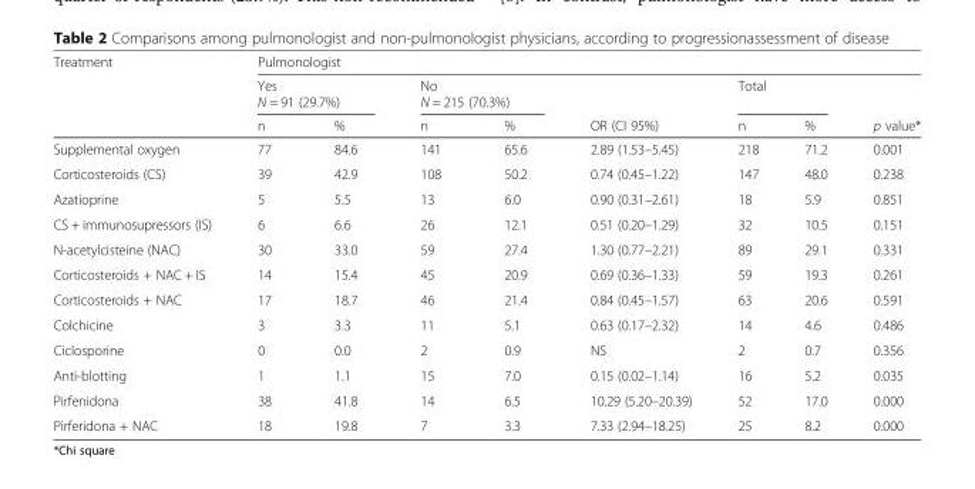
<table><thead><tr><td rowspan="3">Treatment</td><td colspan="8">Pulmonologist</td></tr><tr><td colspan="2">Yes N = 91 (29.7%)</td><td colspan="2">No N = 215 (70.3%)</td><td rowspan="2">OR (CI 95%)</td><td colspan="2">Total</td><td rowspan="2">p value*</td></tr><tr><td>n</td><td>%</td><td>n</td><td>%</td><td>n</td><td>%</td></tr></thead><tbody><tr><td>Supplemental oxygen</td><td>77</td><td>84.6</td><td>141</td><td>65.6</td><td>2.89 (1.53–5.45)</td><td>218</td><td>71.2</td><td>0.001</td></tr><tr><td>Corticosteroids (CS)</td><td>39</td><td>42.9</td><td>108</td><td>50.2</td><td>0.74 (0.45–1.22)</td><td>147</td><td>48.0</td><td>0.238</td></tr><tr><td>Azatioprine</td><td>5</td><td>5.5</td><td>13</td><td>6.0</td><td>0.90 (0.31–2.61)</td><td>18</td><td>5.9</td><td>0.851</td></tr><tr><td>CS + immunosupressors (IS)</td><td>6</td><td>6.6</td><td>26</td><td>12.1</td><td>0.51 (0.20–1.29)</td><td>32</td><td>10.5</td><td>0.151</td></tr><tr><td>N-acetylcisteine (NAC)</td><td>30</td><td>33.0</td><td>59</td><td>27.4</td><td>1.30 (0.77–2.21)</td><td>89</td><td>29.1</td><td>0.331</td></tr><tr><td>Corticosteroids + NAC + IS</td><td>14</td><td>15.4</td><td>45</td><td>20.9</td><td>0.69 (0.36–1.33)</td><td>59</td><td>19.3</td><td>0.261</td></tr><tr><td>Corticosteroids + NAC</td><td>17</td><td>18.7</td><td>46</td><td>21.4</td><td>0.84 (0.45–1.57)</td><td>63</td><td>20.6</td><td>0.591</td></tr><tr><td>Colchicine</td><td>3</td><td>3.3</td><td>11</td><td>5.1</td><td>0.63 (0.17–2.32)</td><td>14</td><td>4.6</td><td>0.486</td></tr><tr><td>Ciclosporine</td><td>0</td><td>0.0</td><td>2</td><td>0.9</td><td>NS</td><td>2</td><td>0.7</td><td>0.356</td></tr><tr><td>Anti-blotting</td><td>1</td><td>1.1</td><td>15</td><td>7.0</td><td>0.15 (0.02–1.14)</td><td>16</td><td>5.2</td><td>0.035</td></tr><tr><td>Pirfenidona</td><td>38</td><td>41.8</td><td>14</td><td>6.5</td><td>10.29 (5.20–20.39)</td><td>52</td><td>17.0</td><td>0.000</td></tr><tr><td>Pirferidona + NAC</td><td>18</td><td>19.8</td><td>7</td><td>3.3</td><td>7.33 (2.94–18.25)</td><td>25</td><td>8.2</td><td>0.000</td></tr></tbody></table>